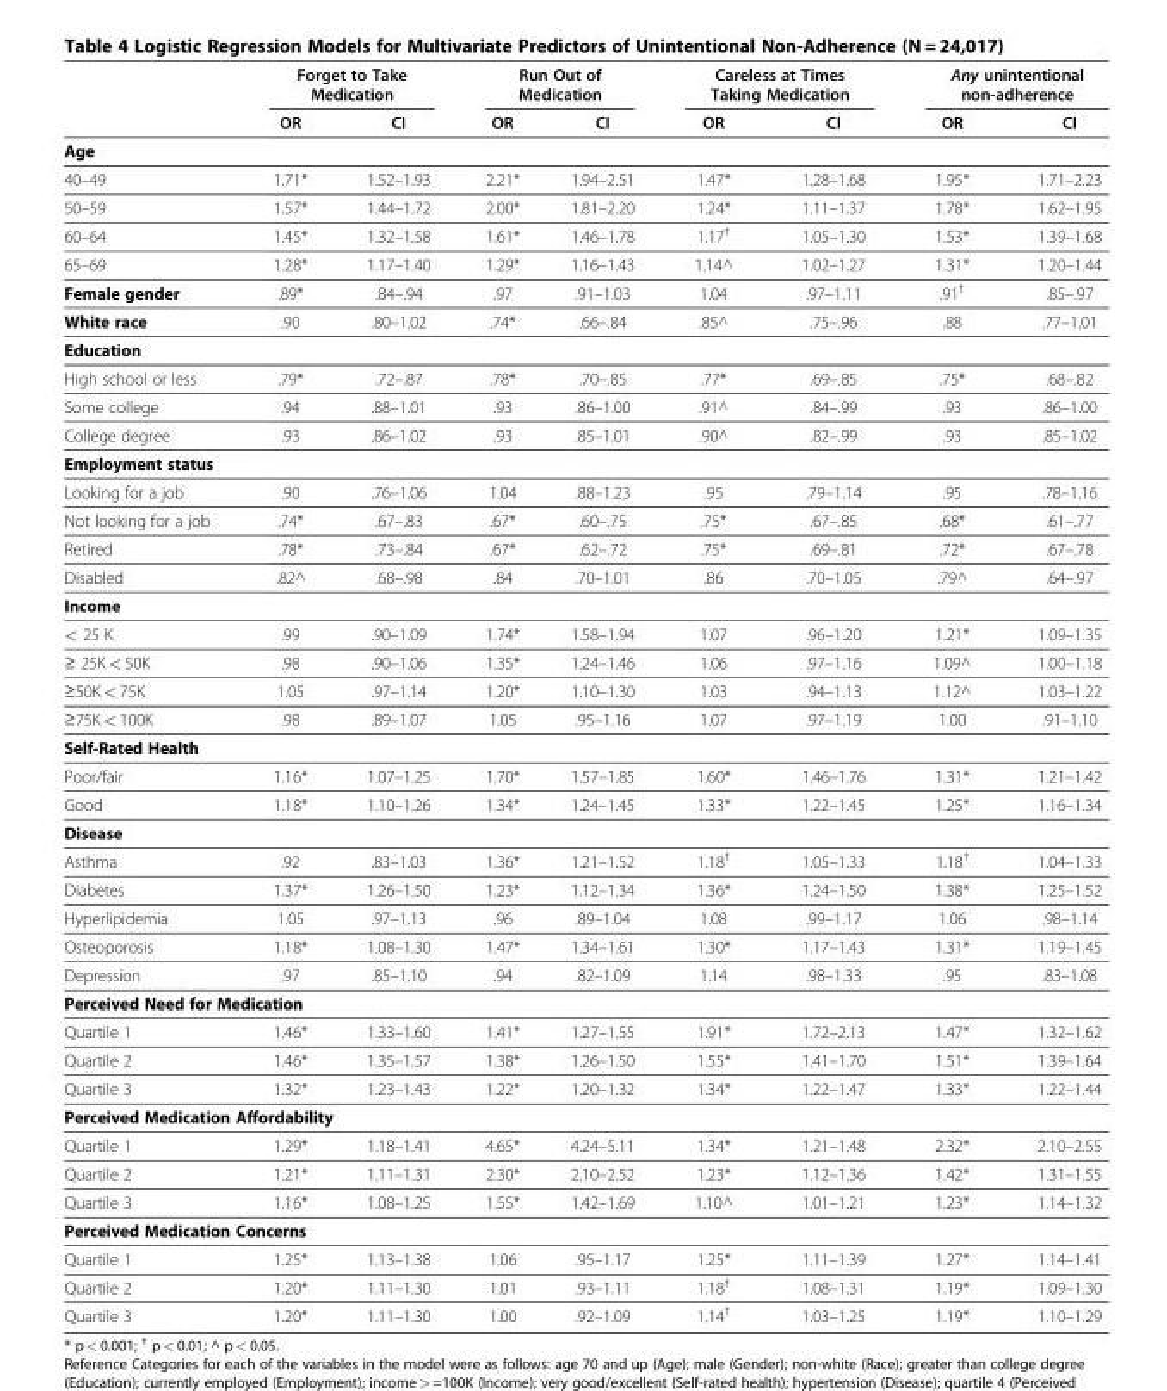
<table><thead><tr><td rowspan="2"></td><td colspan="2">Forget to Take Medication</td><td colspan="2">Run Out of Medication</td><td colspan="2">Careless at Times Taking Medication</td><td colspan="2">Any unintentional non-adherence</td></tr><tr><td>OR</td><td>CI</td><td>OR</td><td>CI</td><td>OR</td><td>CI</td><td>OR</td><td>CI</td></tr></thead><tbody><tr><td colspan="9">Age</td></tr><tr><td>40–49</td><td>1.71*</td><td>1.52–1.93</td><td>2.21*</td><td>1.94–2.51</td><td>1.47*</td><td>1.28–1.68</td><td>1.95*</td><td>1.71–2.23</td></tr><tr><td>50–59</td><td>1.57*</td><td>1.44–1.72</td><td>2.00*</td><td>1.81–2.20</td><td>1.24*</td><td>1.11–1.37</td><td>1.78*</td><td>1.62–1.95</td></tr><tr><td>60–64</td><td>1.45*</td><td>1.32–1.58</td><td>1.61*</td><td>1.46–1.78</td><td>1.17<sup>†</sup></td><td>1.05–1.30</td><td>1.53*</td><td>1.39–1.68</td></tr><tr><td>65–69</td><td>1.28*</td><td>1.17–1.40</td><td>1.29*</td><td>1.16–1.43</td><td>1.14^</td><td>1.02–1.27</td><td>1.31*</td><td>1.20–1.44</td></tr><tr><td>Female gender</td><td>.89*</td><td>.84–.94</td><td>.97</td><td>.91–1.03</td><td>1.04</td><td>.97–1.11</td><td>.91<sup>†</sup></td><td>.85–.97</td></tr><tr><td>White race</td><td>.90</td><td>.80–1.02</td><td>.74*</td><td>.66–.84</td><td>.85^</td><td>.75–.96</td><td>.88</td><td>.77–1.01</td></tr><tr><td colspan="9">Education</td></tr><tr><td>High school or less</td><td>.79*</td><td>.72–.87</td><td>.78*</td><td>.70–.85</td><td>.77*</td><td>.69–.85</td><td>.75*</td><td>.68–.82</td></tr><tr><td>Some college</td><td>.94</td><td>.88–1.01</td><td>.93</td><td>.86–1.00</td><td>.91^</td><td>.84–.99</td><td>.93</td><td>.86–1.00</td></tr><tr><td>College degree</td><td>.93</td><td>.86–1.02</td><td>.93</td><td>.85–1.01</td><td>.90^</td><td>.82–.99</td><td>.93</td><td>.85–1.02</td></tr><tr><td colspan="9">Employment status</td></tr><tr><td>Looking for a job</td><td>.90</td><td>.76–1.06</td><td>1.04</td><td>.88–1.23</td><td>.95</td><td>.79–1.14</td><td>.95</td><td>.78–1.16</td></tr><tr><td>Not looking for a job</td><td>.74*</td><td>.67–.83</td><td>.67*</td><td>.60–.75</td><td>.75*</td><td>.67–.85</td><td>.68*</td><td>.61–.77</td></tr><tr><td>Retired</td><td>.78*</td><td>.73–.84</td><td>.67*</td><td>.62–.72</td><td>.75*</td><td>.69–.81</td><td>.72*</td><td>.67–.78</td></tr><tr><td>Disabled</td><td>.82^</td><td>.68–.98</td><td>.84</td><td>.70–1.01</td><td>.86</td><td>.70–1.05</td><td>.79^</td><td>.64–.97</td></tr><tr><td colspan="9">Income</td></tr><tr><td>&lt; 25 K</td><td>.99</td><td>.90–1.09</td><td>1.74*</td><td>1.58–1.94</td><td>1.07</td><td>.96–1.20</td><td>1.21*</td><td>1.09–1.35</td></tr><tr><td>≥ 25K &lt; 50K</td><td>.98</td><td>.90–1.06</td><td>1.35*</td><td>1.24–1.46</td><td>1.06</td><td>.97–1.16</td><td>1.09^</td><td>1.00–1.18</td></tr><tr><td>≥50K &lt; 75K</td><td>1.05</td><td>.97–1.14</td><td>1.20*</td><td>1.10–1.30</td><td>1.03</td><td>.94–1.13</td><td>1.12^</td><td>1.03–1.22</td></tr><tr><td>≥75K &lt; 100K</td><td>.98</td><td>.89–1.07</td><td>1.05</td><td>.95–1.16</td><td>1.07</td><td>.97–1.19</td><td>1.00</td><td>.91–1.10</td></tr><tr><td colspan="9">Self-Rated Health</td></tr><tr><td>Poor/fair</td><td>1.16*</td><td>1.07–1.25</td><td>1.70*</td><td>1.57–1.85</td><td>1.60*</td><td>1.46–1.76</td><td>1.31*</td><td>1.21–1.42</td></tr><tr><td>Good</td><td>1.18*</td><td>1.10–1.26</td><td>1.34*</td><td>1.24–1.45</td><td>1.33*</td><td>1.22–1.45</td><td>1.25*</td><td>1.16–1.34</td></tr><tr><td colspan="9">Disease</td></tr><tr><td>Asthma</td><td>.92</td><td>.83–1.03</td><td>1.36*</td><td>1.21–1.52</td><td>1.18<sup>†</sup></td><td>1.05–1.33</td><td>1.18<sup>†</sup></td><td>1.04–1.33</td></tr><tr><td>Diabetes</td><td>1.37*</td><td>1.26–1.50</td><td>1.23*</td><td>1.12–1.34</td><td>1.36*</td><td>1.24–1.50</td><td>1.38*</td><td>1.25–1.52</td></tr><tr><td>Hyperlipidemia</td><td>1.05</td><td>.97–1.13</td><td>.96</td><td>.89–1.04</td><td>1.08</td><td>.99–1.17</td><td>1.06</td><td>.98–1.14</td></tr><tr><td>Osteoporosis</td><td>1.18*</td><td>1.08–1.30</td><td>1.47*</td><td>1.34–1.61</td><td>1.30*</td><td>1.17–1.43</td><td>1.31*</td><td>1.19–1.45</td></tr><tr><td>Depression</td><td>.97</td><td>.85–1.10</td><td>.94</td><td>.82–1.09</td><td>1.14</td><td>.98–1.33</td><td>.95</td><td>.83–1.08</td></tr><tr><td colspan="9">Perceived Need for Medication</td></tr><tr><td>Quartile 1</td><td>1.46*</td><td>1.33–1.60</td><td>1.41*</td><td>1.27–1.55</td><td>1.91*</td><td>1.72–2.13</td><td>1.47*</td><td>1.32–1.62</td></tr><tr><td>Quartile 2</td><td>1.46*</td><td>1.35–1.57</td><td>1.38*</td><td>1.26–1.50</td><td>1.55*</td><td>1.41–1.70</td><td>1.51*</td><td>1.39–1.64</td></tr><tr><td>Quartile 3</td><td>1.32*</td><td>1.23–1.43</td><td>1.22*</td><td>1.20–1.32</td><td>1.34*</td><td>1.22–1.47</td><td>1.33*</td><td>1.22–1.44</td></tr><tr><td colspan="9">Perceived Medication Affordability</td></tr><tr><td>Quartile 1</td><td>1.29*</td><td>1.18–1.41</td><td>4.65*</td><td>4.24–5.11</td><td>1.34*</td><td>1.21–1.48</td><td>2.32*</td><td>2.10–2.55</td></tr><tr><td>Quartile 2</td><td>1.21*</td><td>1.11–1.31</td><td>2.30*</td><td>2.10–2.52</td><td>1.23*</td><td>1.12–1.36</td><td>1.42*</td><td>1.31–1.55</td></tr><tr><td>Quartile 3</td><td>1.16*</td><td>1.08–1.25</td><td>1.55*</td><td>1.42–1.69</td><td>1.10^</td><td>1.01–1.21</td><td>1.23*</td><td>1.14–1.32</td></tr><tr><td colspan="9">Perceived Medication Concerns</td></tr><tr><td>Quartile 1</td><td>1.25*</td><td>1.13–1.38</td><td>1.06</td><td>.95–1.17</td><td>1.25*</td><td>1.11–1.39</td><td>1.27*</td><td>1.14–1.41</td></tr><tr><td>Quartile 2</td><td>1.20*</td><td>1.11–1.30</td><td>1.01</td><td>.93–1.11</td><td>1.18<sup>†</sup></td><td>1.08–1.31</td><td>1.19*</td><td>1.09–1.30</td></tr><tr><td>Quartile 3</td><td>1.20*</td><td>1.11–1.30</td><td>1.00</td><td>.92–1.09</td><td>1.14<sup>†</sup></td><td>1.03–1.25</td><td>1.19*</td><td>1.10–1.29</td></tr></tbody></table>